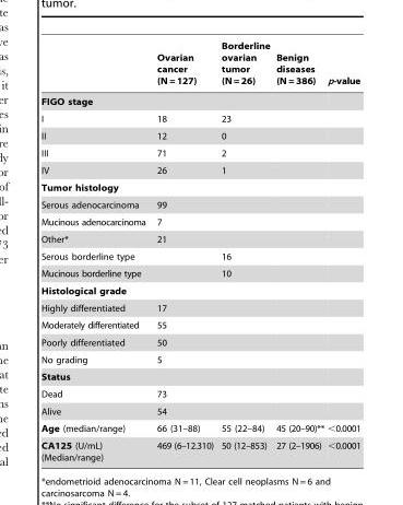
<table><thead><tr><td></td><td>Ovarian cancer (N = 127)</td><td>Borderline ovarian tumor (N = 26)</td><td>Benign diseases (N = 386)</td><td>p-value</td></tr></thead><tbody><tr><td colspan="5">FIGO stage</td></tr><tr><td>I</td><td>18</td><td>23</td><td></td><td></td></tr><tr><td>II</td><td>12</td><td>0</td><td></td><td></td></tr><tr><td>III</td><td>71</td><td>2</td><td></td><td></td></tr><tr><td>IV</td><td>26</td><td>1</td><td></td><td></td></tr><tr><td colspan="5">Tumor histology</td></tr><tr><td>Serous adenocarcinoma</td><td>99</td><td></td><td></td><td></td></tr><tr><td>Mucinous adenocarcinoma</td><td>7</td><td></td><td></td><td></td></tr><tr><td>Other*</td><td>21</td><td></td><td></td><td></td></tr><tr><td>Serous borderline type</td><td></td><td>16</td><td></td><td></td></tr><tr><td>Mucinous borderline type</td><td></td><td>10</td><td></td><td></td></tr><tr><td colspan="5">Histological grade</td></tr><tr><td>Highly differentiated</td><td>17</td><td></td><td></td><td></td></tr><tr><td>Moderately differentiated</td><td>55</td><td></td><td></td><td></td></tr><tr><td>Poorly differentiated</td><td>50</td><td></td><td></td><td></td></tr><tr><td>No grading</td><td>5</td><td></td><td></td><td></td></tr><tr><td colspan="5">Status</td></tr><tr><td>Dead</td><td>73</td><td></td><td></td><td></td></tr><tr><td>Alive</td><td>54</td><td></td><td></td><td></td></tr><tr><td>Age (median/range)</td><td>66 (31–88)</td><td>55 (22–84)</td><td>45 (20–90)**</td><td>&lt;0.0001</td></tr><tr><td>CA125 (U/mL) (Median/range)</td><td>469 (6–12.310)</td><td>50 (12–853)</td><td>27 (2–1906)</td><td>&lt;0.0001</td></tr></tbody></table>